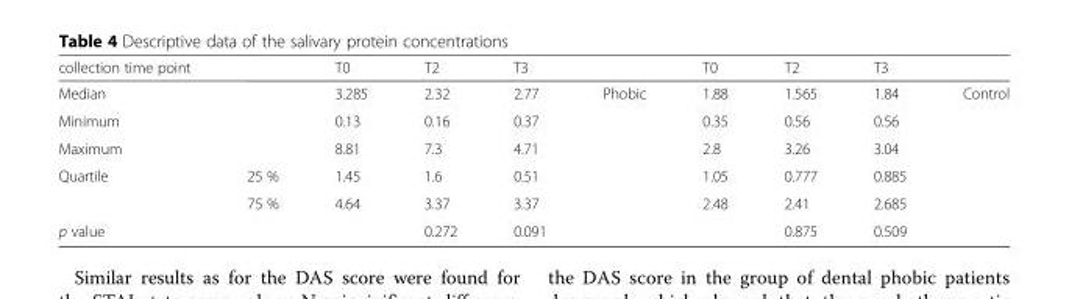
<table><thead><tr><td>collection time point</td><td></td><td>T0</td><td>T2</td><td>T3</td><td></td><td>T0</td><td>T2</td><td>T3</td><td></td></tr></thead><tbody><tr><td>Median</td><td></td><td>3.285</td><td>2.32</td><td>2.77</td><td rowspan="6">Phobic</td><td>1.88</td><td>1.565</td><td>1.84</td><td rowspan="6">Control</td></tr><tr><td>Minimum</td><td></td><td>0.13</td><td>0.16</td><td>0.37</td><td>0.35</td><td>0.56</td><td>0.56</td></tr><tr><td>Maximum</td><td></td><td>8.81</td><td>7.3</td><td>4.71</td><td>2.8</td><td>3.26</td><td>3.04</td></tr><tr><td rowspan="2">Quartile</td><td>25 %</td><td>1.45</td><td>1.6</td><td>0.51</td><td>1.05</td><td>0.777</td><td>0.885</td></tr><tr><td>75 %</td><td>4.64</td><td>3.37</td><td>3.37</td><td>2.48</td><td>2.41</td><td>2.685</td></tr><tr><td>p value</td><td></td><td></td><td>0.272</td><td>0.091</td><td></td><td>0.875</td><td>0.509</td></tr></tbody></table>